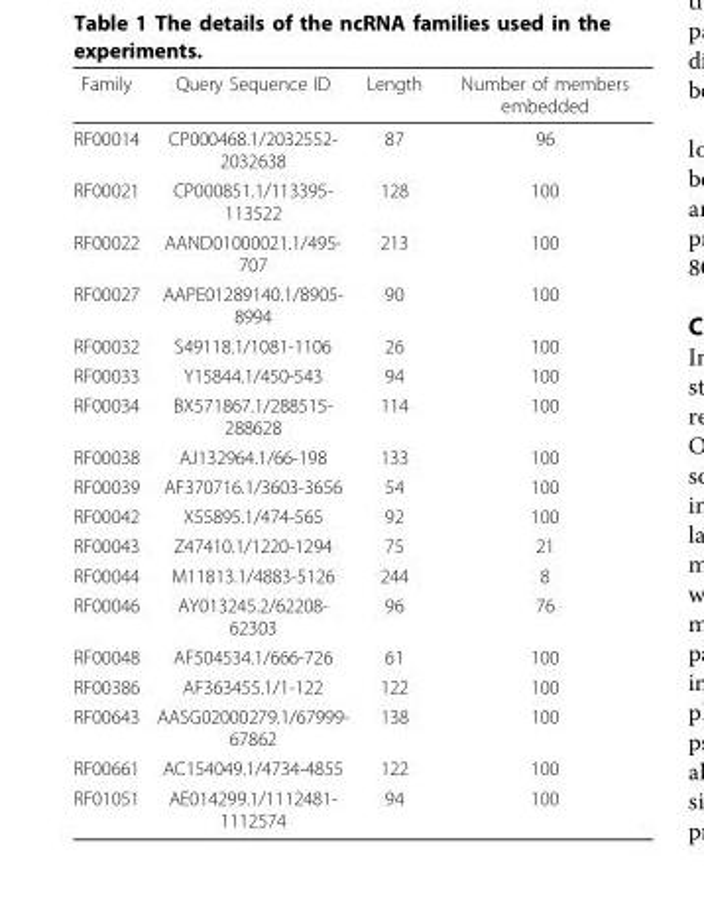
<table><thead><tr><td>Family</td><td>Query Sequence ID</td><td>Length</td><td>Number of members embedded</td></tr></thead><tbody><tr><td>RF00014</td><td>CP000468.1/2032552- 2032638</td><td>87</td><td>96</td></tr><tr><td>RF00021</td><td>CP000851.1/113395- 113522</td><td>128</td><td>100</td></tr><tr><td>RF00022</td><td>AAND01000021.1/495- 707</td><td>213</td><td>100</td></tr><tr><td>RF00027</td><td>AAPE01289140.1/8905- 8994</td><td>90</td><td>100</td></tr><tr><td>RF00032</td><td>S49118.1/1081-1106</td><td>26</td><td>100</td></tr><tr><td>RF00033</td><td>Y15844.1/450-543</td><td>94</td><td>100</td></tr><tr><td>RF00034</td><td>BX571867.1/288515- 288628</td><td>114</td><td>100</td></tr><tr><td>RF00038</td><td>AJ132964.1/66-198</td><td>133</td><td>100</td></tr><tr><td>RF00039</td><td>AF370716.1/3603-3656</td><td>54</td><td>100</td></tr><tr><td>RF00042</td><td>X55895.1/474-565</td><td>92</td><td>100</td></tr><tr><td>RF00043</td><td>Z47410.1/1220-1294</td><td>75</td><td>21</td></tr><tr><td>RF00044</td><td>M11813.1/4883-5126</td><td>244</td><td>8</td></tr><tr><td>RF00046</td><td>AY013245.2/62208- 62303</td><td>96</td><td>76</td></tr><tr><td>RF00048</td><td>AF504534.1/666-726</td><td>61</td><td>100</td></tr><tr><td>RF00386</td><td>AF363455.1/1-122</td><td>122</td><td>100</td></tr><tr><td>RF00643</td><td>AASG02000279.1/67999- 67862</td><td>138</td><td>100</td></tr><tr><td>RF00661</td><td>AC154049.1/4734-4855</td><td>122</td><td>100</td></tr><tr><td>RF01051</td><td>AE014299.1/1112481- 1112574</td><td>94</td><td>100</td></tr></tbody></table>